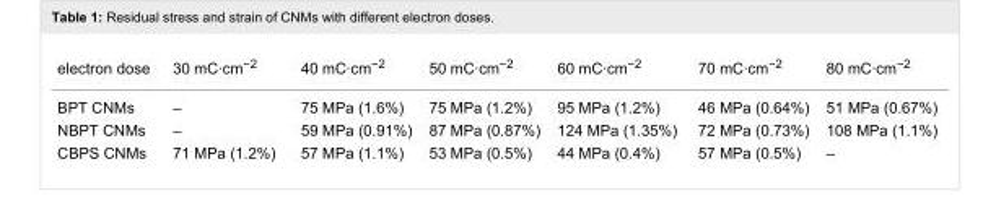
<table><tbody><tr><td>electron dose</td><td>30 mC·cm<sup>−2</sup></td><td>40 mC·cm<sup>−2</sup></td><td>50 mC·cm<sup>−2</sup></td><td>60 mC·cm<sup>−2</sup></td><td>70 mC·cm<sup>−2</sup></td><td>80 mC·cm<sup>−2</sup></td></tr><tr><td>BPT CNMs</td><td>–</td><td>75 MPa (1.6%)</td><td>75 MPa (1.2%)</td><td>95 MPa (1.2%)</td><td>46 MPa (0.64%)</td><td>51 MPa (0.67%)</td></tr><tr><td>NBPT CNMs</td><td>–</td><td>59 MPa (0.91%)</td><td>87 MPa (0.87%)</td><td>124 MPa (1.35%)</td><td>72 MPa (0.73%)</td><td>108 MPa (1.1%)</td></tr><tr><td>CBPS CNMs</td><td>71 MPa (1.2%)</td><td>57 MPa (1.1%)</td><td>53 MPa (0.5%)</td><td>44 MPa (0.4%)</td><td>57 MPa (0.5%)</td><td>–</td></tr></tbody></table>